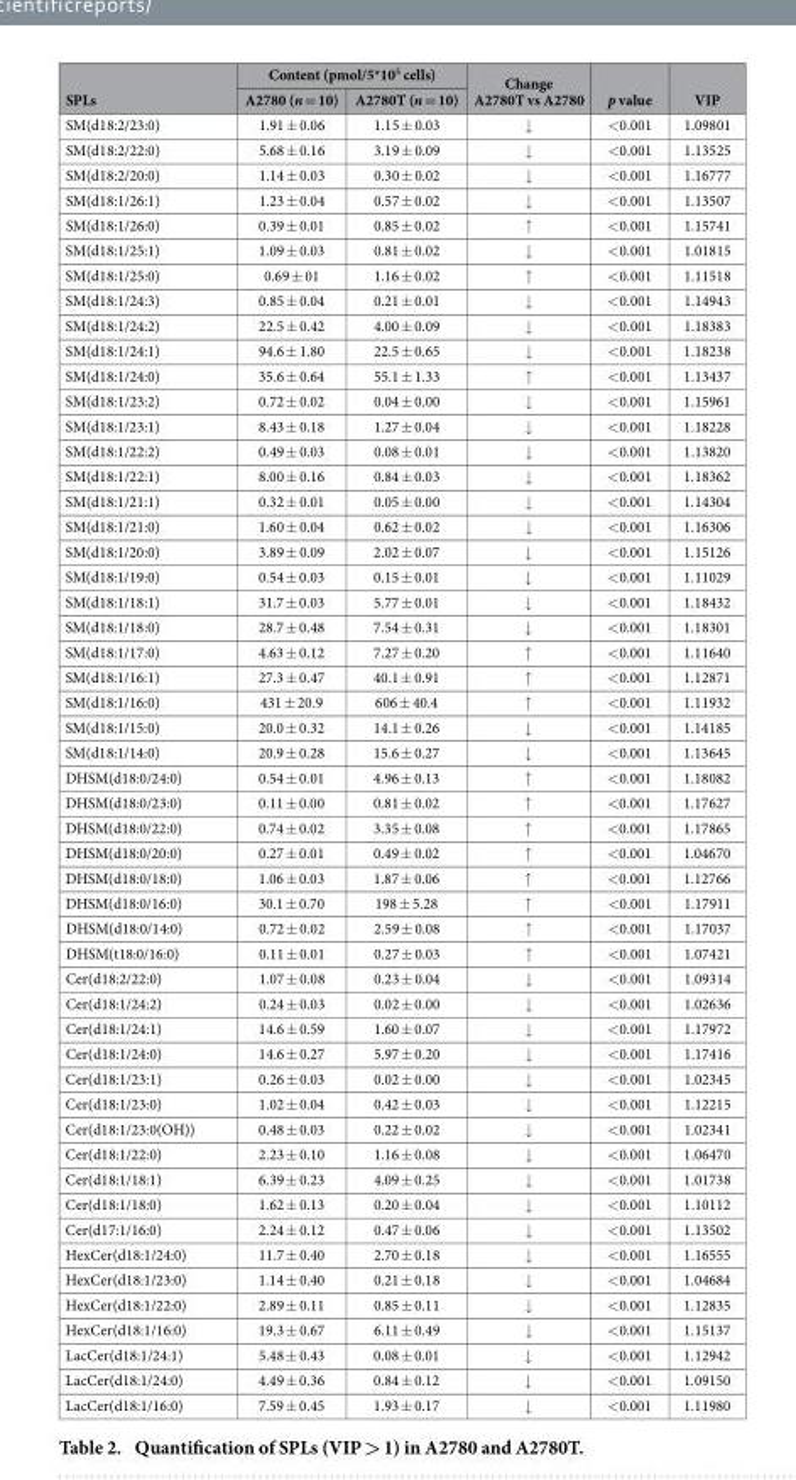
<table><thead><tr><td rowspan="2">SPLs</td><td colspan="2">Content (pmol/5*10<sup>5</sup> cells)</td><td rowspan="2">Change A2780T vs A2780</td><td rowspan="2">p value</td><td rowspan="2">VIP</td></tr><tr><td>A2780 (n = 10)</td><td>A2780T (n = 10)</td></tr></thead><tbody><tr><td>SM(d18:2/23:0)</td><td>1.91 ± 0.06</td><td>1.15 ± 0.03</td><td>↓</td><td>&lt; 0.001</td><td>1.09801</td></tr><tr><td>SM(d18:2/22:0)</td><td>5.68 ± 0.16</td><td>3.19 ± 0.09</td><td>↓</td><td>&lt; 0.001</td><td>1.13525</td></tr><tr><td>SM(d18:2/20:0)</td><td>1.14 ± 0.03</td><td>0.30 ± 0.02</td><td>↓</td><td>&lt; 0.001</td><td>1.16777</td></tr><tr><td>SM(d18:1/26:1)</td><td>1.23 ± 0.04</td><td>0.57 ± 0.02</td><td>↓</td><td>&lt; 0.001</td><td>1.13507</td></tr><tr><td>SM(d18:1/26:0)</td><td>0.39 ± 0.01</td><td>0.85 ± 0.02</td><td>↑</td><td>&lt; 0.001</td><td>1.15741</td></tr><tr><td>SM(d18:1/25:1)</td><td>1.09 ± 0.03</td><td>0.81 ± 0.02</td><td>↓</td><td>&lt; 0.001</td><td>1.01815</td></tr><tr><td>SM(d18:1/25:0)</td><td>0.69 ± 01</td><td>1.16 ± 0.02</td><td>↑</td><td>&lt; 0.001</td><td>1.11518</td></tr><tr><td>SM(d18:1/24:3)</td><td>0.85 ± 0.04</td><td>0.21 ± 0.01</td><td>↓</td><td>&lt; 0.001</td><td>1.14943</td></tr><tr><td>SM(d18:1/24:2)</td><td>22.5 ± 0.42</td><td>4.00 ± 0.09</td><td>↓</td><td>&lt; 0.001</td><td>1.18383</td></tr><tr><td>SM(d18:1/24:1)</td><td>94.6 ± 1.80</td><td>22.5 ± 0.65</td><td>↓</td><td>&lt; 0.001</td><td>1.18238</td></tr><tr><td>SM(d18:1/24:0)</td><td>35.6 ± 0.64</td><td>55.1 ± 1.33</td><td>↑</td><td>&lt; 0.001</td><td>1.13437</td></tr><tr><td>SM(d18:1/23:2)</td><td>0.72 ± 0.02</td><td>0.04 ± 0.00</td><td>↓</td><td>&lt; 0.001</td><td>1.15961</td></tr><tr><td>SM(d18:1/23:1)</td><td>8.43 ± 0.18</td><td>1.27 ± 0.04</td><td>↓</td><td>&lt; 0.001</td><td>1.18228</td></tr><tr><td>SM(d18:1/22:2)</td><td>0.49 ± 0.03</td><td>0.08 ± 0.01</td><td>↓</td><td>&lt; 0.001</td><td>1.13820</td></tr><tr><td>SM(d18:1/22:1)</td><td>8.00 ± 0.16</td><td>0.84 ± 0.03</td><td>↓</td><td>&lt; 0.001</td><td>1.18362</td></tr><tr><td>SM(d18:1/21:1)</td><td>0.32 ± 0.01</td><td>0.05 ± 0.00</td><td>↓</td><td>&lt; 0.001</td><td>1.14304</td></tr><tr><td>SM(d18:1/21:0)</td><td>1.60 ± 0.04</td><td>0.62 ± 0.02</td><td>↓</td><td>&lt; 0.001</td><td>1.16306</td></tr><tr><td>SM(d18:1/20:0)</td><td>3.89 ± 0.09</td><td>2.02 ± 0.07</td><td>↓</td><td>&lt; 0.001</td><td>1.15126</td></tr><tr><td>SM(d18:1/19:0)</td><td>0.54 ± 0.03</td><td>0.15 ± 0.01</td><td>↓</td><td>&lt; 0.001</td><td>1.11029</td></tr><tr><td>SM(d18:1/18:1)</td><td>31.7 ± 0.03</td><td>5.77 ± 0.01</td><td>↓</td><td>&lt; 0.001</td><td>1.18432</td></tr><tr><td>SM(d18:1/18:0)</td><td>28.7 ± 0.48</td><td>7.54 ± 0.31</td><td>↓</td><td>&lt; 0.001</td><td>1.18301</td></tr><tr><td>SM(d18:1/17:0)</td><td>4.63 ± 0.12</td><td>7.27 ± 0.20</td><td>↑</td><td>&lt; 0.001</td><td>1.11640</td></tr><tr><td>SM(d18:1/16:1)</td><td>27.3 ± 0.47</td><td>40.1 ± 0.91</td><td>↑</td><td>&lt; 0.001</td><td>1.12871</td></tr><tr><td>SM(d18:1/16:0)</td><td>431 ± 20.9</td><td>606 ± 40.4</td><td>↑</td><td>&lt; 0.001</td><td>1.11932</td></tr><tr><td>SM(d18:1/15:0)</td><td>20.0 ± 0.32</td><td>14.1 ± 0.26</td><td>↓</td><td>&lt; 0.001</td><td>1.14185</td></tr><tr><td>SM(d18:1/14:0)</td><td>20.9 ± 0.28</td><td>15.6 ± 0.27</td><td>↓</td><td>&lt; 0.001</td><td>1.13645</td></tr><tr><td>DHSM(d18:0/24:0)</td><td>0.54 ± 0.01</td><td>4.96 ± 0.13</td><td>↑</td><td>&lt; 0.001</td><td>1.18082</td></tr><tr><td>DHSM(d18:0/23:0)</td><td>0.11 ± 0.00</td><td>0.81 ± 0.02</td><td>↑</td><td>&lt; 0.001</td><td>1.17627</td></tr><tr><td>DHSM(d18:0/22:0)</td><td>0.74 ± 0.02</td><td>3.35 ± 0.08</td><td>↑</td><td>&lt; 0.001</td><td>1.17865</td></tr><tr><td>DHSM(d18:0/20:0)</td><td>0.27 ± 0.01</td><td>0.49 ± 0.02</td><td>↑</td><td>&lt; 0.001</td><td>1.04670</td></tr><tr><td>DHSM(d18:0/18:0)</td><td>1.06 ± 0.03</td><td>1.87 ± 0.06</td><td>↑</td><td>&lt; 0.001</td><td>1.12766</td></tr><tr><td>DHSM(d18:0/16:0)</td><td>30.1 ± 0.70</td><td>198 ± 5.28</td><td>↑</td><td>&lt; 0.001</td><td>1.17911</td></tr><tr><td>DHSM(d18:0/14:0)</td><td>0.72 ± 0.02</td><td>2.59 ± 0.08</td><td>↑</td><td>&lt; 0.001</td><td>1.17037</td></tr><tr><td>DHSM(t18:0/16:0)</td><td>0.11 ± 0.01</td><td>0.27 ± 0.03</td><td>↑</td><td>&lt; 0.001</td><td>1.07421</td></tr><tr><td>Cer(d18:2/22:0)</td><td>1.07 ± 0.08</td><td>0.23 ± 0.04</td><td>↓</td><td>&lt; 0.001</td><td>1.09314</td></tr><tr><td>Cer(d18:1/24:2)</td><td>0.24 ± 0.03</td><td>0.02 ± 0.00</td><td>↓</td><td>&lt; 0.001</td><td>1.02636</td></tr><tr><td>Cer(d18:1/24:1)</td><td>14.6 ± 0.59</td><td>1.60 ± 0.07</td><td>↓</td><td>&lt; 0.001</td><td>1.17972</td></tr><tr><td>Cer(d18:1/24:0)</td><td>14.6 ± 0.27</td><td>5.97 ± 0.20</td><td>↓</td><td>&lt; 0.001</td><td>1.17416</td></tr><tr><td>Cer(d18:1/23:1)</td><td>0.26 ± 0.03</td><td>0.02 ± 0.00</td><td>↓</td><td>&lt; 0.001</td><td>1.02345</td></tr><tr><td>Cer(d18:1/23:0)</td><td>1.02 ± 0.04</td><td>0.42 ± 0.03</td><td>↓</td><td>&lt; 0.001</td><td>1.12215</td></tr><tr><td>Cer(d18:1/23:0(OH))</td><td>0.48 ± 0.03</td><td>0.22 ± 0.02</td><td>↓</td><td>&lt; 0.001</td><td>1.02341</td></tr><tr><td>Cer(d18:1/22:0)</td><td>2.23 ± 0.10</td><td>1.16 ± 0.08</td><td>↓</td><td>&lt; 0.001</td><td>1.06470</td></tr><tr><td>Cer(d18:1/18:1)</td><td>6.39 ± 0.23</td><td>4.09 ± 0.25</td><td>↓</td><td>&lt; 0.001</td><td>1.01738</td></tr><tr><td>Cer(d18:1/18:0)</td><td>1.62 ± 0.13</td><td>0.20 ± 0.04</td><td>↓</td><td>&lt; 0.001</td><td>1.10112</td></tr><tr><td>Cer(d17:1/16:0)</td><td>2.24 ± 0.12</td><td>0.47 ± 0.06</td><td>↓</td><td>&lt; 0.001</td><td>1.13502</td></tr><tr><td>HexCer(d18:1/24:0)</td><td>11.7 ± 0.40</td><td>2.70 ± 0.18</td><td>↓</td><td>&lt; 0.001</td><td>1.16555</td></tr><tr><td>HexCer(d18:1/23:0)</td><td>1.14 ± 0.40</td><td>0.21 ± 0.18</td><td>↓</td><td>&lt; 0.001</td><td>1.04684</td></tr><tr><td>HexCer(d18:1/22:0)</td><td>2.89 ± 0.11</td><td>0.85 ± 0.11</td><td>↓</td><td>&lt; 0.001</td><td>1.12835</td></tr><tr><td>HexCer(d18:1/16:0)</td><td>19.3 ± 0.67</td><td>6.11 ± 0.49</td><td>↓</td><td>&lt; 0.001</td><td>1.15137</td></tr><tr><td>LacCer(d18:1/24:1)</td><td>5.48 ± 0.43</td><td>0.08 ± 0.01</td><td>↓</td><td>&lt; 0.001</td><td>1.12942</td></tr><tr><td>LacCer(d18:1/24:0)</td><td>4.49 ± 0.36</td><td>0.84 ± 0.12</td><td>↓</td><td>&lt; 0.001</td><td>1.09150</td></tr><tr><td>LacCer(d18:1/16:0)</td><td>7.59 ± 0.45</td><td>1.93 ± 0.17</td><td>↓</td><td>&lt; 0.001</td><td>1.11980</td></tr></tbody></table>